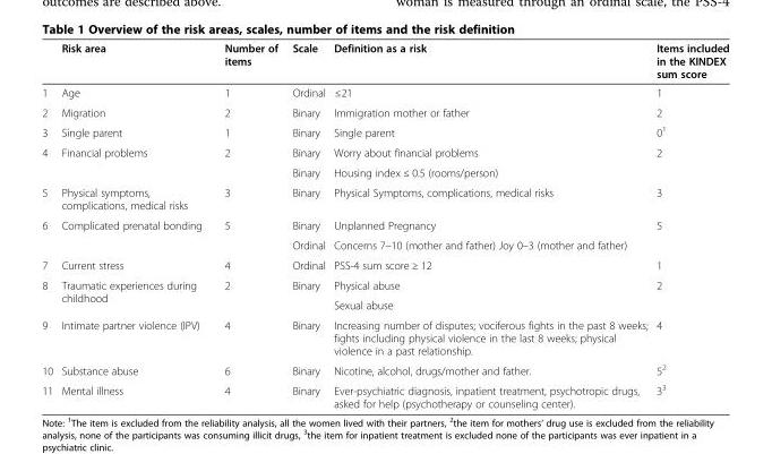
<table><thead><tr><td></td><td>Risk area</td><td>Number of items</td><td>Scale</td><td>Definition as a risk</td><td>Items included in the KINDEX sum score</td></tr></thead><tbody><tr><td>1</td><td>Age</td><td>1</td><td>Ordinal</td><td>≤21</td><td>1</td></tr><tr><td>2</td><td>Migration</td><td>2</td><td>Binary</td><td>Immigration mother or father</td><td>2</td></tr><tr><td>3</td><td>Single parent</td><td>1</td><td>Binary</td><td>Single parent</td><td>0<sup>1</sup></td></tr><tr><td rowspan="2">4</td><td rowspan="2">Financial problems</td><td rowspan="2">2</td><td>Binary</td><td>Worry about financial problems</td><td rowspan="2">2</td></tr><tr><td>Binary</td><td>Housing index ≤ 0.5 (rooms/person)</td></tr><tr><td>5</td><td>Physical symptoms, complications, medical risks</td><td>3</td><td>Binary</td><td>Physical Symptoms, complications, medical risks</td><td>3</td></tr><tr><td rowspan="2">6</td><td rowspan="2">Complicated prenatal bonding</td><td rowspan="2">5</td><td>Binary</td><td>Unplanned Pregnancy</td><td rowspan="2">5</td></tr><tr><td>Ordinal</td><td>Concerns 7–10 (mother and father) Joy 0–3 (mother and father)</td></tr><tr><td>7</td><td>Current stress</td><td>4</td><td>Ordinal</td><td>PSS-4 sum score ≥ 12</td><td>1</td></tr><tr><td rowspan="2">8</td><td rowspan="2">Traumatic experiences during childhood</td><td rowspan="2">2</td><td rowspan="2">Binary</td><td>Physical abuse</td><td rowspan="2">2</td></tr><tr><td>Sexual abuse</td></tr><tr><td>9</td><td>Intimate partner violence (IPV)</td><td>4</td><td>Binary</td><td>Increasing number of disputes; vociferous fights in the past 8 weeks; fights including physical violence in the last 8 weeks; physical violence in a past relationship.</td><td>4</td></tr><tr><td>10</td><td>Substance abuse</td><td>6</td><td>Binary</td><td>Nicotine, alcohol, drugs/mother and father.</td><td>5<sup>2</sup></td></tr><tr><td>11</td><td>Mental illness</td><td>4</td><td>Binary</td><td>Ever-psychiatric diagnosis, inpatient treatment, psychotropic drugs, asked for help (psychotherapy or counseling center).</td><td>3<sup>3</sup></td></tr></tbody></table>